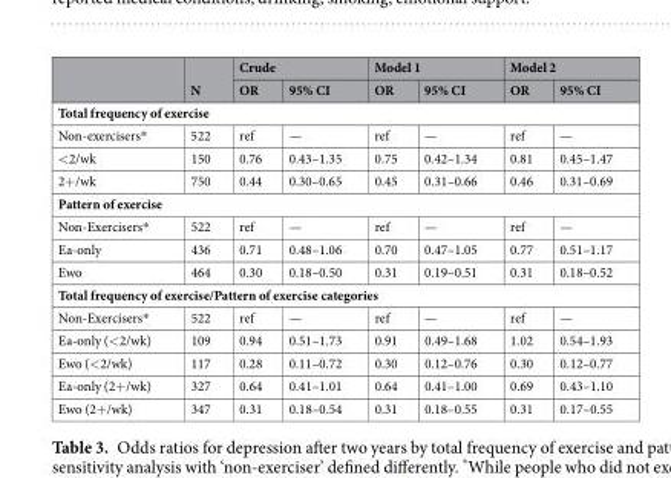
<table><thead><tr><td rowspan="2"></td><td rowspan="2">N</td><td colspan="2">Crude</td><td colspan="2">Model 1</td><td colspan="2">Model 2</td></tr><tr><td>OR</td><td>95% CI</td><td>OR</td><td>95% CI</td><td>OR</td><td>95% CI</td></tr></thead><tbody><tr><td colspan="8">Total frequency of exercise</td></tr><tr><td>Non-exercisers*</td><td>522</td><td>ref</td><td>—</td><td>ref</td><td>—</td><td>ref</td><td>—</td></tr><tr><td>&lt;2/wk</td><td>150</td><td>0.76</td><td>0.43–1.35</td><td>0.75</td><td>0.42–1.34</td><td>0.81</td><td>0.45–1.47</td></tr><tr><td>2+/wk</td><td>750</td><td>0.44</td><td>0.30–0.65</td><td>0.45</td><td>0.31–0.66</td><td>0.46</td><td>0.31–0.69</td></tr><tr><td colspan="8">Pattern of exercise</td></tr><tr><td>Non-Exercisers*</td><td>522</td><td>ref</td><td>—</td><td>ref</td><td>—</td><td>ref</td><td>—</td></tr><tr><td>Ea-only</td><td>436</td><td>0.71</td><td>0.48–1.06</td><td>0.70</td><td>0.47–1.05</td><td>0.77</td><td>0.51–1.17</td></tr><tr><td>Ewo</td><td>464</td><td>0.30</td><td>0.18–0.50</td><td>0.31</td><td>0.19–0.51</td><td>0.31</td><td>0.18–0.52</td></tr><tr><td colspan="8">Total frequency of exercise/Pattern of exercise categories</td></tr><tr><td>Non-Exercisers*</td><td>522</td><td>ref</td><td>—</td><td>ref</td><td>—</td><td>ref</td><td>—</td></tr><tr><td>Ea-only (&lt;2/wk)</td><td>109</td><td>0.94</td><td>0.51–1.73</td><td>0.91</td><td>0.49–1.68</td><td>1.02</td><td>0.54–1.93</td></tr><tr><td>Ewo (&lt;2/wk)</td><td>117</td><td>0.28</td><td>0.11–0.72</td><td>0.30</td><td>0.12–0.76</td><td>0.30</td><td>0.12–0.77</td></tr><tr><td>Ea-only (2+/wk)</td><td>327</td><td>0.64</td><td>0.41–1.01</td><td>0.64</td><td>0.41–1.00</td><td>0.69</td><td>0.43–1.10</td></tr><tr><td>Ewo (2+/wk)</td><td>347</td><td>0.31</td><td>0.18–0.54</td><td>0.31</td><td>0.18–0.55</td><td>0.31</td><td>0.17–0.55</td></tr></tbody></table>